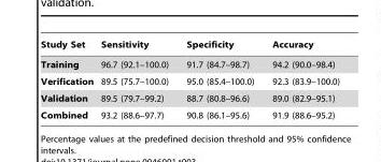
<table><thead><tr><td>Study Set</td><td>Sensitivity</td><td>Specificity</td><td>Accuracy</td></tr></thead><tbody><tr><td>Training</td><td>96.7 (92.1–100.0)</td><td>91.7 (84.7–98.7)</td><td>94.2 (90.0–98.4)</td></tr><tr><td>Verification</td><td>89.5 (75.7–100.0)</td><td>95.0 (85.4–100.0)</td><td>92.3 (83.9–100.0)</td></tr><tr><td>Validation</td><td>89.5 (79.7–99.2)</td><td>88.7 (80.8–96.6)</td><td>89.0 (82.9–95.1)</td></tr><tr><td>Combined</td><td>93.2 (88.6–97.7)</td><td>90.8 (86.1–95.6)</td><td>91.9 (88.6–95.2)</td></tr></tbody></table>